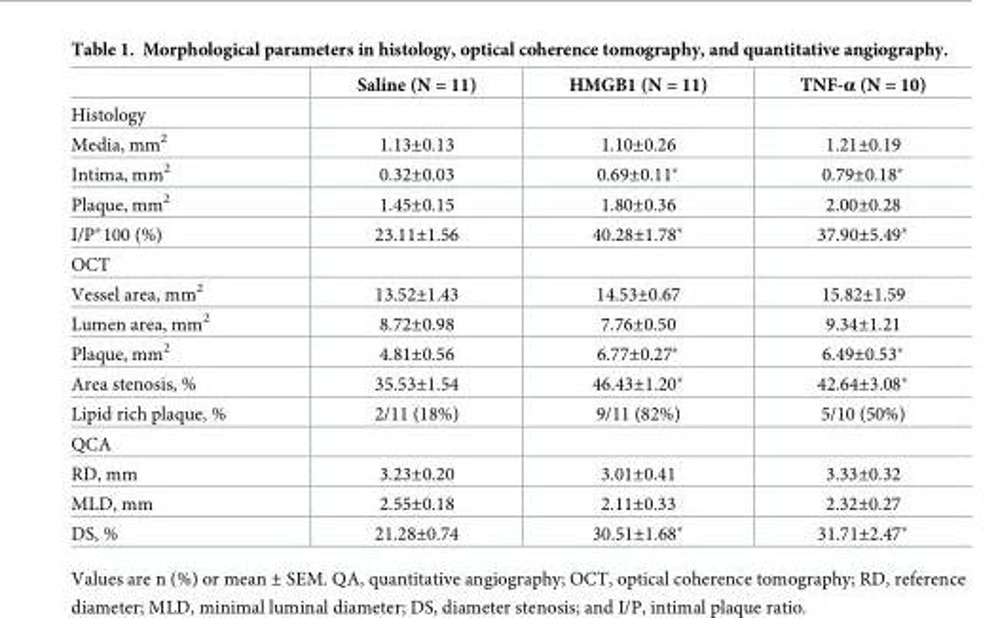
<table><thead><tr><td></td><td>Saline (N = 11)</td><td>HMGB1 (N = 11)</td><td>TNF-α (N = 10)</td></tr></thead><tbody><tr><td colspan="4">Histology</td></tr><tr><td>Media, mm<sup>2</sup></td><td>1.13±0.13</td><td>1.10±0.26</td><td>1.21±0.19</td></tr><tr><td>Intima, mm<sup>2</sup></td><td>0.32±0.03</td><td>0.69±0.11*</td><td>0.79±0.18*</td></tr><tr><td>Plaque, mm<sup>2</sup></td><td>1.45±0.15</td><td>1.80±0.36</td><td>2.00±0.28</td></tr><tr><td>I/P*100 (%)</td><td>23.11±1.56</td><td>40.28±1.78*</td><td>37.90±5.49*</td></tr><tr><td colspan="4">OCT</td></tr><tr><td>Vessel area, mm<sup>2</sup></td><td>13.52±1.43</td><td>14.53±0.67</td><td>15.82±1.59</td></tr><tr><td>Lumen area, mm<sup>2</sup></td><td>8.72±0.98</td><td>7.76±0.50</td><td>9.34±1.21</td></tr><tr><td>Plaque, mm<sup>2</sup></td><td>4.81±0.56</td><td>6.77±0.27*</td><td>6.49±0.53*</td></tr><tr><td>Area stenosis, %</td><td>35.53±1.54</td><td>46.43±1.20*</td><td>42.64±3.08*</td></tr><tr><td>Lipid rich plaque, %</td><td>2/11 (18%)</td><td>9/11 (82%)</td><td>5/10 (50%)</td></tr><tr><td colspan="4">QCA</td></tr><tr><td>RD, mm</td><td>3.23±0.20</td><td>3.01±0.41</td><td>3.33±0.32</td></tr><tr><td>MLD, mm</td><td>2.55±0.18</td><td>2.11±0.33</td><td>2.32±0.27</td></tr><tr><td>DS, %</td><td>21.28±0.74</td><td>30.51±1.68*</td><td>31.71±2.47*</td></tr></tbody></table>